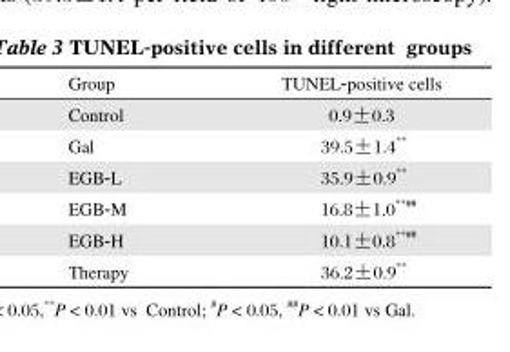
<table><thead><tr><td>Group</td><td>TUNEL-positive cells</td></tr></thead><tbody><tr><td>Control</td><td>0.9±0.3</td></tr><tr><td>Gal</td><td>39.5±1.4 **</td></tr><tr><td>EGB-L</td><td>35.9±0.9 **</td></tr><tr><td>EGB-M</td><td>16.8±1.0 **<sup>##</sup></td></tr><tr><td>EGB-H</td><td>10.1±0.8 **<sup>##</sup></td></tr><tr><td>Therapy</td><td>36.2±0.9 **</td></tr></tbody></table>